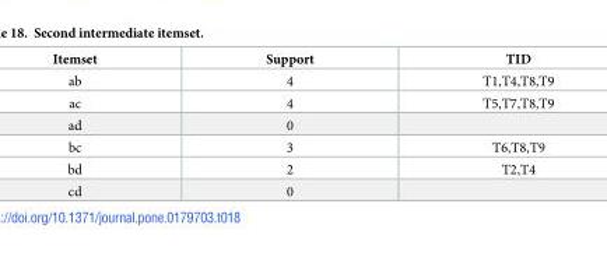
<table><thead><tr><td>Itemset</td><td>Support</td><td>TID</td></tr></thead><tbody><tr><td>ab</td><td>4</td><td>T1,T4,T8,T9</td></tr><tr><td>ac</td><td>4</td><td>T5,T7,T8,T9</td></tr><tr><td>ad</td><td>0</td><td></td></tr><tr><td>bc</td><td>3</td><td>T6,T8,T9</td></tr><tr><td>bd</td><td>2</td><td>T2,T4</td></tr><tr><td>cd</td><td>0</td><td></td></tr></tbody></table>